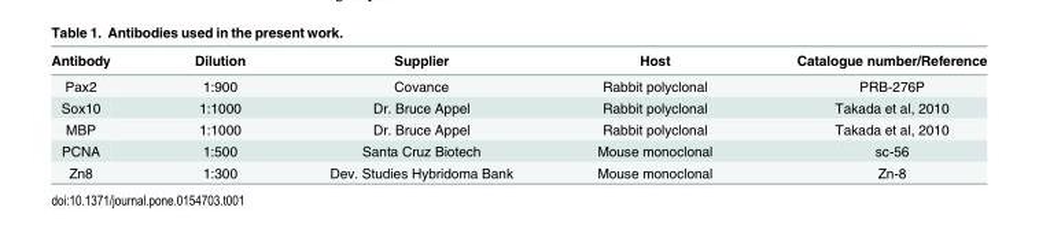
<table><thead><tr><td>Antibody</td><td>Dilution</td><td>Supplier</td><td>Host</td><td>Catalogue number/Reference</td></tr></thead><tbody><tr><td>Pax2</td><td>1:900</td><td>Covance</td><td>Rabbit polyclonal</td><td>PRB-276P</td></tr><tr><td>Sox10</td><td>1:1000</td><td>Dr. Bruce Appel</td><td>Rabbit polyclonal</td><td>Takada et al, 2010</td></tr><tr><td>MBP</td><td>1:1000</td><td>Dr. Bruce Appel</td><td>Rabbit polyclonal</td><td>Takada et al, 2010</td></tr><tr><td>PCNA</td><td>1:500</td><td>Santa Cruz Biotech</td><td>Mouse monoclonal</td><td>sc-56</td></tr><tr><td>Zn8</td><td>1:300</td><td>Dev. Studies Hybridoma Bank</td><td>Mouse monoclonal</td><td>Zn-8</td></tr></tbody></table>